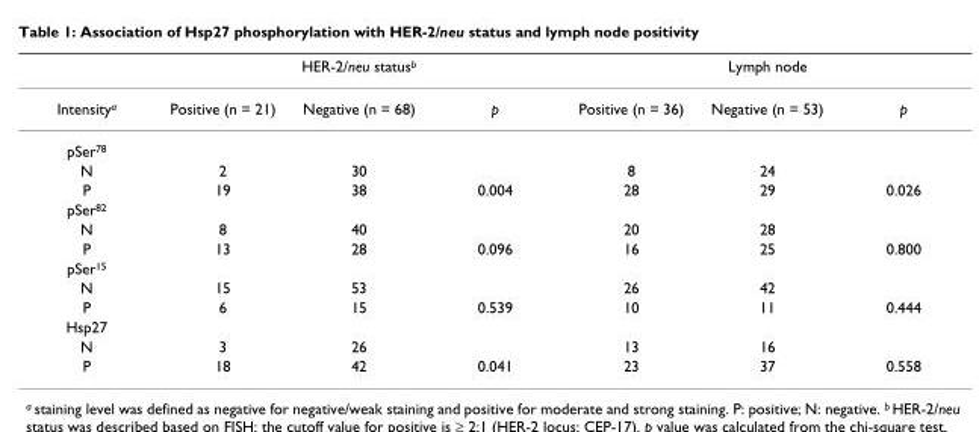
<table><thead><tr><td rowspan="2">Intensity<sup>a</sup></td><td colspan="3">HER-2/neu status<sup>b</sup></td><td colspan="3">Lymph node</td></tr><tr><td>Positive (n = 21)</td><td>Negative (n = 68)</td><td>p</td><td>Positive (n = 36)</td><td>Negative (n = 53)</td><td>p</td></tr></thead><tbody><tr><td colspan="7">pSer<sup>78</sup></td></tr><tr><td>N</td><td>2</td><td>30</td><td></td><td>8</td><td>24</td><td></td></tr><tr><td>P</td><td>19</td><td>38</td><td>0.004</td><td>28</td><td>29</td><td>0.026</td></tr><tr><td colspan="7">pSer<sup>82</sup></td></tr><tr><td>N</td><td>8</td><td>40</td><td></td><td>20</td><td>28</td><td></td></tr><tr><td>P</td><td>13</td><td>28</td><td>0.096</td><td>16</td><td>25</td><td>0.800</td></tr><tr><td colspan="7">pSer<sup>15</sup></td></tr><tr><td>N</td><td>15</td><td>53</td><td></td><td>26</td><td>42</td><td></td></tr><tr><td>P</td><td>6</td><td>15</td><td>0.539</td><td>10</td><td>11</td><td>0.444</td></tr><tr><td colspan="7">Hsp27</td></tr><tr><td>N</td><td>3</td><td>26</td><td></td><td>13</td><td>16</td><td></td></tr><tr><td>P</td><td>18</td><td>42</td><td>0.041</td><td>23</td><td>37</td><td>0.558</td></tr></tbody></table>